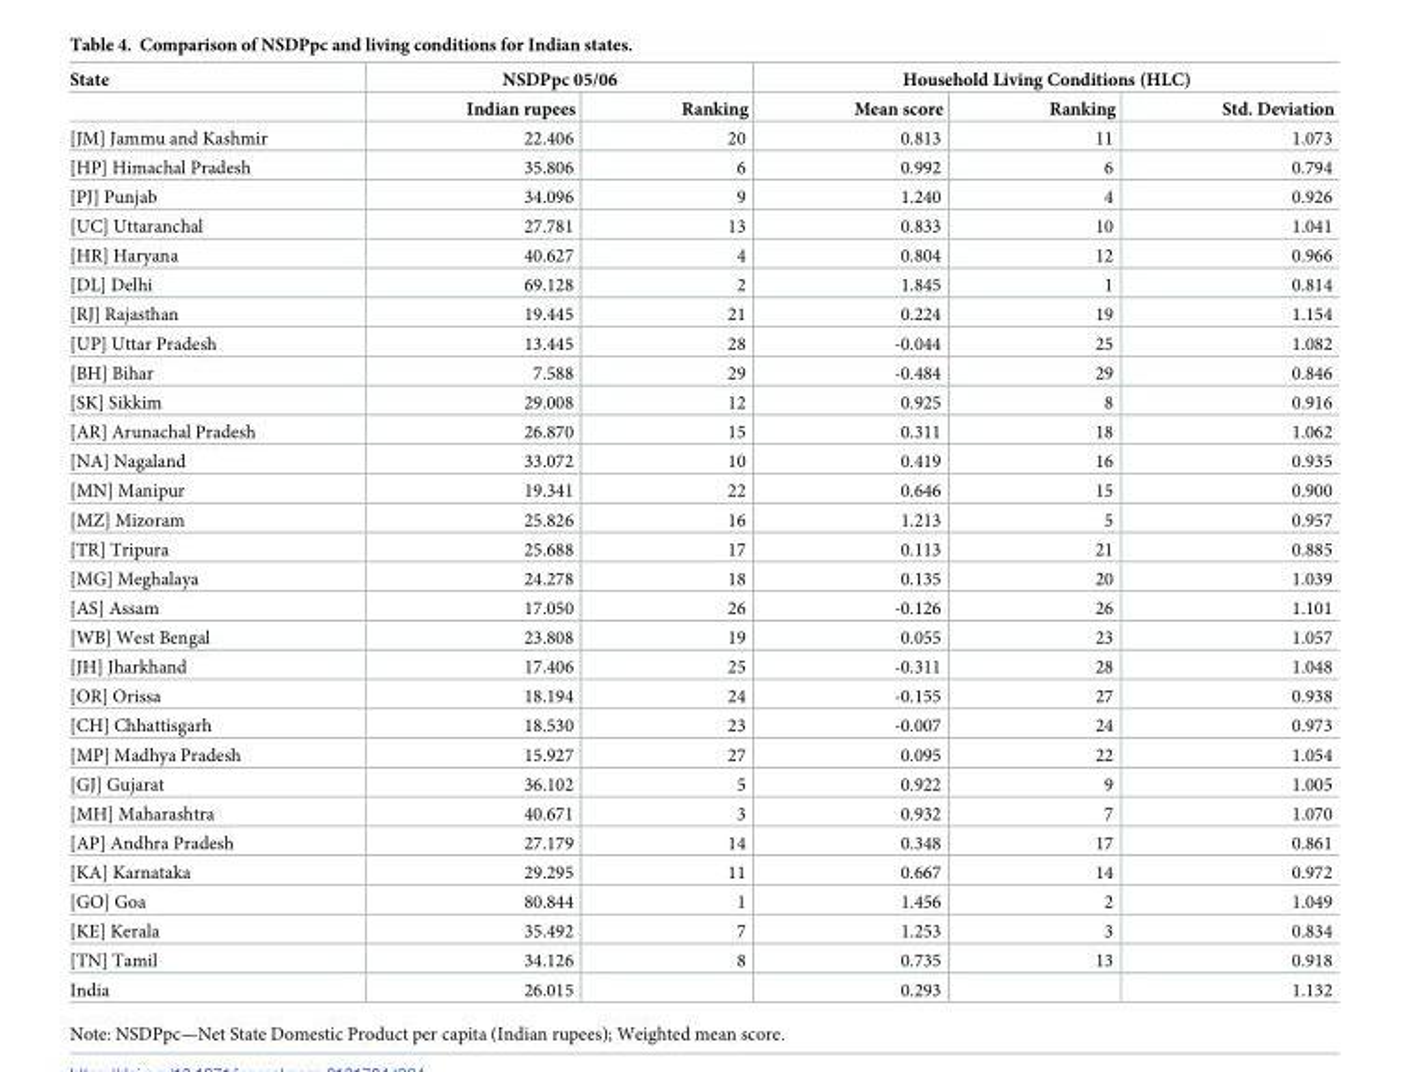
<table><thead><tr><td rowspan="2">State</td><td colspan="2">NSDPpc 05/06</td><td colspan="3">Household Living Conditions (HLC)</td></tr><tr><td>Indian rupees</td><td>Ranking</td><td>Mean score</td><td>Ranking</td><td>Std. Deviation</td></tr></thead><tbody><tr><td>[JM] Jammu and Kashmir</td><td>22.406</td><td>20</td><td>0.813</td><td>11</td><td>1.073</td></tr><tr><td>[HP] Himachal Pradesh</td><td>35.806</td><td>6</td><td>0.992</td><td>6</td><td>0.794</td></tr><tr><td>[PJ] Punjab</td><td>34.096</td><td>9</td><td>1.240</td><td>4</td><td>0.926</td></tr><tr><td>[UC] Uttaranchal</td><td>27.781</td><td>13</td><td>0.833</td><td>10</td><td>1.041</td></tr><tr><td>[HR] Haryana</td><td>40.627</td><td>4</td><td>0.804</td><td>12</td><td>0.966</td></tr><tr><td>[DL] Delhi</td><td>69.128</td><td>2</td><td>1.845</td><td>1</td><td>0.814</td></tr><tr><td>[RJ] Rajasthan</td><td>19.445</td><td>21</td><td>0.224</td><td>19</td><td>1.154</td></tr><tr><td>[UP] Uttar Pradesh</td><td>13.445</td><td>28</td><td>-0.044</td><td>25</td><td>1.082</td></tr><tr><td>[BH] Bihar</td><td>7.588</td><td>29</td><td>-0.484</td><td>29</td><td>0.846</td></tr><tr><td>[SK] Sikkim</td><td>29.008</td><td>12</td><td>0.925</td><td>8</td><td>0.916</td></tr><tr><td>[AR] Arunachal Pradesh</td><td>26.870</td><td>15</td><td>0.311</td><td>18</td><td>1.062</td></tr><tr><td>[NA] Nagaland</td><td>33.072</td><td>10</td><td>0.419</td><td>16</td><td>0.935</td></tr><tr><td>[MN] Manipur</td><td>19.341</td><td>22</td><td>0.646</td><td>15</td><td>0.900</td></tr><tr><td>[MZ] Mizoram</td><td>25.826</td><td>16</td><td>1.213</td><td>5</td><td>0.957</td></tr><tr><td>[TR] Tripura</td><td>25.688</td><td>17</td><td>0.113</td><td>21</td><td>0.885</td></tr><tr><td>[MG] Meghalaya</td><td>24.278</td><td>18</td><td>0.135</td><td>20</td><td>1.039</td></tr><tr><td>[AS] Assam</td><td>17.050</td><td>26</td><td>-0.126</td><td>26</td><td>1.101</td></tr><tr><td>[WB] West Bengal</td><td>23.808</td><td>19</td><td>0.055</td><td>23</td><td>1.057</td></tr><tr><td>[JH] Jharkhand</td><td>17.406</td><td>25</td><td>-0.311</td><td>28</td><td>1.048</td></tr><tr><td>[OR] Orissa</td><td>18.194</td><td>24</td><td>-0.155</td><td>27</td><td>0.938</td></tr><tr><td>[CH] Chhattisgarh</td><td>18.530</td><td>23</td><td>-0.007</td><td>24</td><td>0.973</td></tr><tr><td>[MP] Madhya Pradesh</td><td>15.927</td><td>27</td><td>0.095</td><td>22</td><td>1.054</td></tr><tr><td>[GJ] Gujarat</td><td>36.102</td><td>5</td><td>0.922</td><td>9</td><td>1.005</td></tr><tr><td>[MH] Maharashtra</td><td>40.671</td><td>3</td><td>0.932</td><td>7</td><td>1.070</td></tr><tr><td>[AP] Andhra Pradesh</td><td>27.179</td><td>14</td><td>0.348</td><td>17</td><td>0.861</td></tr><tr><td>[KA] Karnataka</td><td>29.295</td><td>11</td><td>0.667</td><td>14</td><td>0.972</td></tr><tr><td>[GO] Goa</td><td>80.844</td><td>1</td><td>1.456</td><td>2</td><td>1.049</td></tr><tr><td>[KE] Kerala</td><td>35.492</td><td>7</td><td>1.253</td><td>3</td><td>0.834</td></tr><tr><td>[TN] Tamil</td><td>34.126</td><td>8</td><td>0.735</td><td>13</td><td>0.918</td></tr><tr><td>India</td><td>26.015</td><td></td><td>0.293</td><td></td><td>1.132</td></tr></tbody></table>